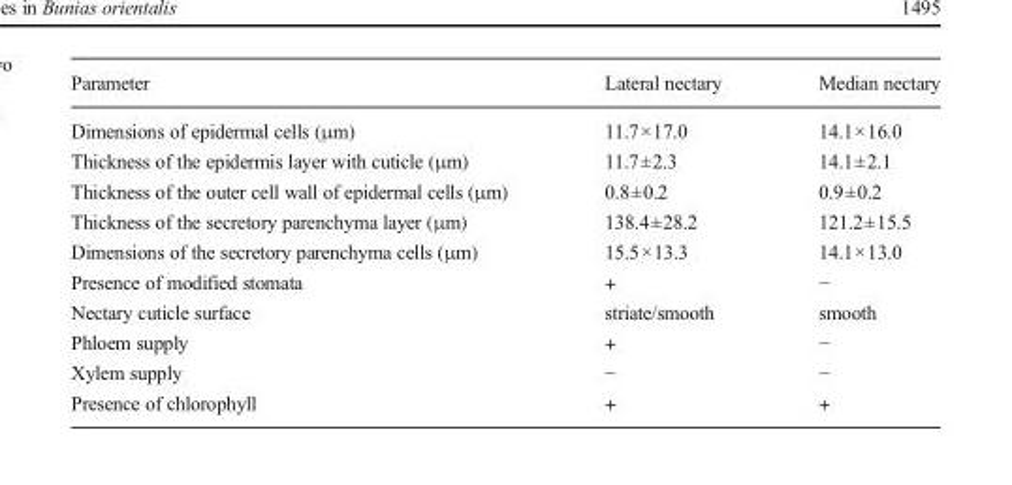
<table><thead><tr><td>Parameter</td><td>Lateral nectary</td><td>Median nectary</td></tr></thead><tbody><tr><td>Dimensions of epidermal cells (μm)</td><td>11.7×17.0</td><td>14.1×16.0</td></tr><tr><td>Thickness of the epidermis layer with cuticle (μm)</td><td>11.7±2.3</td><td>14.1±2.1</td></tr><tr><td>Thickness of the outer cell wall of epidermal cells (μm)</td><td>0.8±0.2</td><td>0.9±0.2</td></tr><tr><td>Thickness of the secretory parenchyma layer (μm)</td><td>138.4±28.2</td><td>121.2±15.5</td></tr><tr><td>Dimensions of the secretory parenchyma cells (μm)</td><td>15.5×13.3</td><td>14.1×13.0</td></tr><tr><td>Presence of modified stomata</td><td>+</td><td>−</td></tr><tr><td>Nectary cuticle surface</td><td>striate/smooth</td><td>smooth</td></tr><tr><td>Phloem supply</td><td>+</td><td>−</td></tr><tr><td>Xylem supply</td><td>−</td><td>−</td></tr><tr><td>Presence of chlorophyll</td><td>+</td><td>+</td></tr></tbody></table>